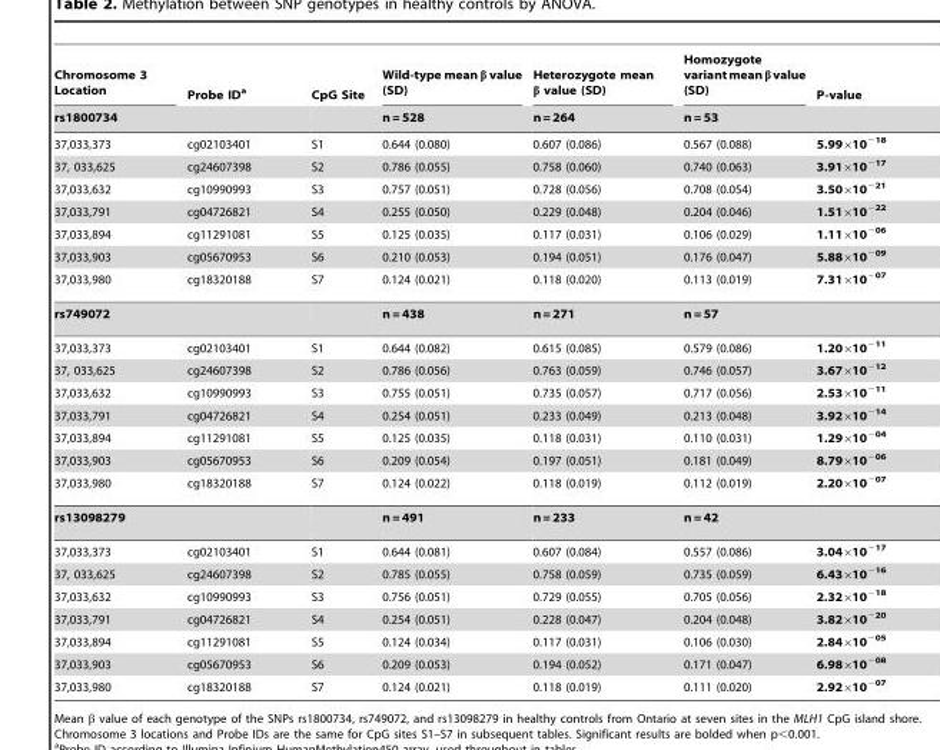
<table><thead><tr><td rowspan="2">Chromosome 3 Location rs1800734</td><td rowspan="2">Probe ID<sup>a</sup></td><td rowspan="2">CpG Site</td><td rowspan="2">Wild-type mean β value (SD) n = 528</td><td rowspan="2">Heterozygote mean β value (SD) n = 264</td><td rowspan="2">Homozygote variant mean β value (SD) n = 53</td><td rowspan="2">P-value</td></tr><tr></tr></thead><tbody><tr><td>37,033,373</td><td>cg02103401</td><td>S1</td><td>0.644 (0.080)</td><td>0.607 (0.086)</td><td>0.567 (0.088)</td><td>5.99×10<sup>−18</sup></td></tr><tr><td>37, 033,625</td><td>cg24607398</td><td>S2</td><td>0.786 (0.055)</td><td>0.758 (0.060)</td><td>0.740 (0.063)</td><td>3.91×10<sup>−17</sup></td></tr><tr><td>37,033,632</td><td>cg10990993</td><td>S3</td><td>0.757 (0.051)</td><td>0.728 (0.056)</td><td>0.708 (0.054)</td><td>3.50×10<sup>−21</sup></td></tr><tr><td>37,033,791</td><td>cg04726821</td><td>S4</td><td>0.255 (0.050)</td><td>0.229 (0.048)</td><td>0.204 (0.046)</td><td>1.51×10<sup>−22</sup></td></tr><tr><td>37,033,894</td><td>cg11291081</td><td>S5</td><td>0.125 (0.035)</td><td>0.117 (0.031)</td><td>0.106 (0.029)</td><td>1.11×10<sup>−06</sup></td></tr><tr><td>37,033,903</td><td>cg05670953</td><td>S6</td><td>0.210 (0.053)</td><td>0.194 (0.051)</td><td>0.176 (0.047)</td><td>5.88×10<sup>−09</sup></td></tr><tr><td>37,033,980</td><td>cg18320188</td><td>S7</td><td>0.124 (0.021)</td><td>0.118 (0.020)</td><td>0.113 (0.019)</td><td>7.31×10<sup>−07</sup></td></tr><tr><td>rs749072</td><td></td><td></td><td>n = 438</td><td>n = 271</td><td>n = 57</td><td></td></tr><tr><td>37,033,373</td><td>cg02103401</td><td>S1</td><td>0.644 (0.082)</td><td>0.615 (0.085)</td><td>0.579 (0.086)</td><td>1.20×10<sup>−11</sup></td></tr><tr><td>37, 033,625</td><td>cg24607398</td><td>S2</td><td>0.786 (0.056)</td><td>0.763 (0.059)</td><td>0.746 (0.057)</td><td>3.67×10<sup>−12</sup></td></tr><tr><td>37,033,632</td><td>cg10990993</td><td>S3</td><td>0.755 (0.051)</td><td>0.735 (0.057)</td><td>0.717 (0.056)</td><td>2.53×10<sup>−11</sup></td></tr><tr><td>37,033,791</td><td>cg04726821</td><td>S4</td><td>0.254 (0.051)</td><td>0.233 (0.049)</td><td>0.213 (0.048)</td><td>3.92×10<sup>−14</sup></td></tr><tr><td>37,033,894</td><td>cg11291081</td><td>S5</td><td>0.125 (0.035)</td><td>0.118 (0.031)</td><td>0.110 (0.031)</td><td>1.29×10<sup>−04</sup></td></tr><tr><td>37,033,903</td><td>cg05670953</td><td>S6</td><td>0.209 (0.054)</td><td>0.197 (0.051)</td><td>0.181 (0.049)</td><td>8.79×10<sup>−06</sup></td></tr><tr><td>37,033,980</td><td>cg18320188</td><td>S7</td><td>0.124 (0.022)</td><td>0.118 (0.019)</td><td>0.112 (0.019)</td><td>2.20×10<sup>−07</sup></td></tr><tr><td>rs13098279</td><td></td><td></td><td>n = 491</td><td>n = 233</td><td>n = 42</td><td></td></tr><tr><td>37,033,373</td><td>cg02103401</td><td>S1</td><td>0.644 (0.081)</td><td>0.607 (0.084)</td><td>0.557 (0.086)</td><td>3.04×10<sup>−17</sup></td></tr><tr><td>37, 033,625</td><td>cg24607398</td><td>S2</td><td>0.785 (0.055)</td><td>0.758 (0.059)</td><td>0.735 (0.059)</td><td>6.43×10<sup>−16</sup></td></tr><tr><td>37,033,632</td><td>cg10990993</td><td>S3</td><td>0.756 (0.051)</td><td>0.729 (0.055)</td><td>0.705 (0.056)</td><td>2.32×10<sup>−18</sup></td></tr><tr><td>37,033,791</td><td>cg04726821</td><td>S4</td><td>0.254 (0.051)</td><td>0.228 (0.047)</td><td>0.204 (0.048)</td><td>3.82×10<sup>−20</sup></td></tr><tr><td>37,033,894</td><td>cg11291081</td><td>S5</td><td>0.124 (0.034)</td><td>0.117 (0.031)</td><td>0.106 (0.030)</td><td>2.84×10<sup>−05</sup></td></tr><tr><td>37,033,903</td><td>cg05670953</td><td>S6</td><td>0.209 (0.053)</td><td>0.194 (0.052)</td><td>0.171 (0.047)</td><td>6.98×10<sup>−08</sup></td></tr><tr><td>37,033,980</td><td>cg18320188</td><td>S7</td><td>0.124 (0.021)</td><td>0.118 (0.019)</td><td>0.111 (0.020)</td><td>2.92×10<sup>−07</sup></td></tr></tbody></table>